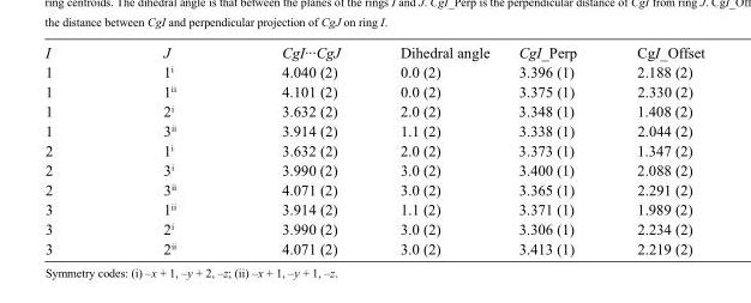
<table><tbody><tr><td>I</td><td>J</td><td>CgI···CgJ</td><td>Dihedral angle</td><td>CgI_Perp</td><td>CgI_Offset</td></tr><tr><td>1</td><td>1<sup>i</sup></td><td>4.040 (2)</td><td>0.0 (2)</td><td>3.396 (1)</td><td>2.188 (2)</td></tr><tr><td>1</td><td>1<sup>ii</sup></td><td>4.101 (2)</td><td>0.0 (2)</td><td>3.375 (1)</td><td>2.330 (2)</td></tr><tr><td>1</td><td>2<sup>i</sup></td><td>3.632 (2)</td><td>2.0 (2)</td><td>3.348 (1)</td><td>1.408 (2)</td></tr><tr><td>1</td><td>3<sup>ii</sup></td><td>3.914 (2)</td><td>1.1 (2)</td><td>3.338 (1)</td><td>2.044 (2)</td></tr><tr><td>2</td><td>1<sup>i</sup></td><td>3.632 (2)</td><td>2.0 (2)</td><td>3.373 (1)</td><td>1.347 (2)</td></tr><tr><td>2</td><td>3<sup>i</sup></td><td>3.990 (2)</td><td>3.0 (2)</td><td>3.400 (1)</td><td>2.088 (2)</td></tr><tr><td>2</td><td>3<sup>ii</sup></td><td>4.071 (2)</td><td>3.0 (2)</td><td>3.365 (1)</td><td>2.291 (2)</td></tr><tr><td>3</td><td>1<sup>ii</sup></td><td>3.914 (2)</td><td>1.1 (2)</td><td>3.371 (1)</td><td>1.989 (2)</td></tr><tr><td>3</td><td>2<sup>i</sup></td><td>3.990 (2)</td><td>3.0 (2)</td><td>3.306 (1)</td><td>2.234 (2)</td></tr><tr><td>3</td><td>2<sup>ii</sup></td><td>4.071 (2)</td><td>3.0 (2)</td><td>3.413 (1)</td><td>2.219 (2)</td></tr></tbody></table>